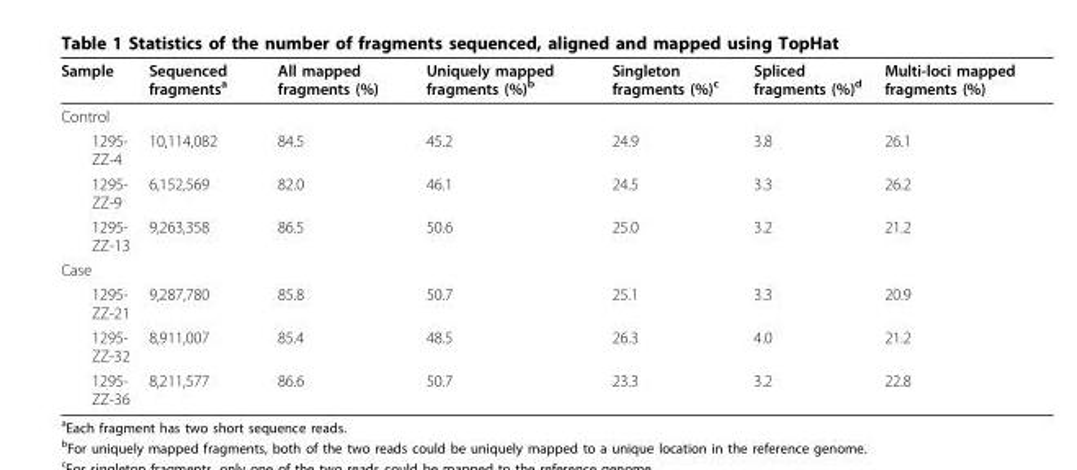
<table><thead><tr><td>Sample</td><td>Sequenced fragments<sup>a</sup></td><td>All mapped fragments (%)</td><td>Uniquely mapped fragments (%)<sup>b</sup></td><td>Singleton fragments (%)<sup>c</sup></td><td>Spliced fragments (%)<sup>d</sup></td><td>Multi-loci mapped fragments (%)</td></tr></thead><tbody><tr><td colspan="7">Control</td></tr><tr><td>1295- ZZ-4</td><td>10,114,082</td><td>84.5</td><td>45.2</td><td>24.9</td><td>3.8</td><td>26.1</td></tr><tr><td>1295- ZZ-9</td><td>6,152,569</td><td>82.0</td><td>46.1</td><td>24.5</td><td>3.3</td><td>26.2</td></tr><tr><td>1295- ZZ-13</td><td>9,263,358</td><td>86.5</td><td>50.6</td><td>25.0</td><td>3.2</td><td>21.2</td></tr><tr><td colspan="7">Case</td></tr><tr><td>1295- ZZ-21</td><td>9,287,780</td><td>85.8</td><td>50.7</td><td>25.1</td><td>3.3</td><td>20.9</td></tr><tr><td>1295- ZZ-32</td><td>8,911,007</td><td>85.4</td><td>48.5</td><td>26.3</td><td>4.0</td><td>21.2</td></tr><tr><td>1295- ZZ-36</td><td>8,211,577</td><td>86.6</td><td>50.7</td><td>23.3</td><td>3.2</td><td>22.8</td></tr></tbody></table>